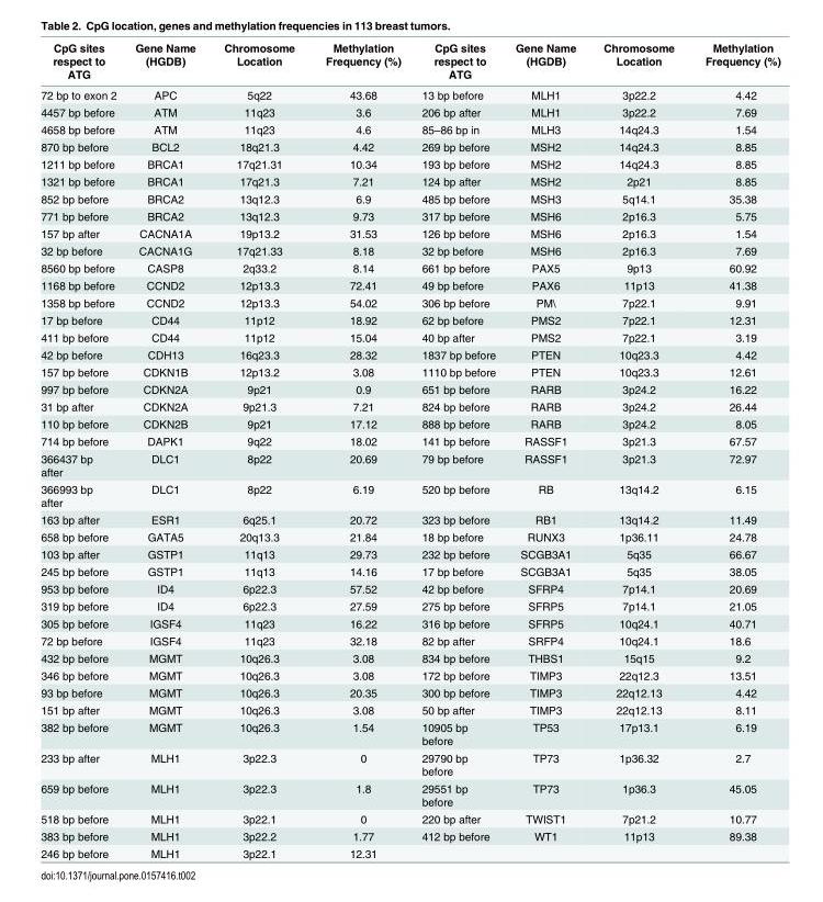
<table><thead><tr><td>CpG sites respect to ATG</td><td>Gene Name (HGDB)</td><td>Chromosome Location</td><td>Methylation Frequency (%)</td><td>CpG sites respect to ATG</td><td>Gene Name (HGDB)</td><td>Chromosome Location</td><td>Methylation Frequency (%)</td></tr></thead><tbody><tr><td>72 bp to exon 2</td><td>APC</td><td>5q22</td><td>43.68</td><td>13 bp before</td><td>MLH1</td><td>3p22.2</td><td>4.42</td></tr><tr><td>4457 bp before</td><td>ATM</td><td>11q23</td><td>3.6</td><td>206 bp after</td><td>MLH1</td><td>3p22.2</td><td>7.69</td></tr><tr><td>4658 bp before</td><td>ATM</td><td>11q23</td><td>4.6</td><td>85–86 bp in</td><td>MLH3</td><td>14q24.3</td><td>1.54</td></tr><tr><td>870 bp before</td><td>BCL2</td><td>18q21.3</td><td>4.42</td><td>269 bp before</td><td>MSH2</td><td>14q24.3</td><td>8.85</td></tr><tr><td>1211 bp before</td><td>BRCA1</td><td>17q21.31</td><td>10.34</td><td>193 bp before</td><td>MSH2</td><td>14q24.3</td><td>8.85</td></tr><tr><td>1321 bp before</td><td>BRCA1</td><td>17q21.3</td><td>7.21</td><td>124 bp after</td><td>MSH2</td><td>2p21</td><td>8.85</td></tr><tr><td>852 bp before</td><td>BRCA2</td><td>13q12.3</td><td>6.9</td><td>485 bp before</td><td>MSH3</td><td>5q14.1</td><td>35.38</td></tr><tr><td>771 bp before</td><td>BRCA2</td><td>13q12.3</td><td>9.73</td><td>317 bp before</td><td>MSH6</td><td>2p16.3</td><td>5.75</td></tr><tr><td>157 bp after</td><td>CACNA1A</td><td>19p13.2</td><td>31.53</td><td>126 bp before</td><td>MSH6</td><td>2p16.3</td><td>1.54</td></tr><tr><td>32 bp before</td><td>CACNA1G</td><td>17q21.33</td><td>8.18</td><td>32 bp before</td><td>MSH6</td><td>2p16.3</td><td>7.69</td></tr><tr><td>8560 bp before</td><td>CASP8</td><td>2q33.2</td><td>8.14</td><td>661 bp before</td><td>PAX5</td><td>9p13</td><td>60.92</td></tr><tr><td>1168 bp before</td><td>CCND2</td><td>12p13.3</td><td>72.41</td><td>49 bp before</td><td>PAX6</td><td>11p13</td><td>41.38</td></tr><tr><td>1358 bp before</td><td>CCND2</td><td>12p13.3</td><td>54.02</td><td>306 bp before</td><td>PM\</td><td>7p22.1</td><td>9.91</td></tr><tr><td>17 bp before</td><td>CD44</td><td>11p12</td><td>18.92</td><td>62 bp before</td><td>PMS2</td><td>7p22.1</td><td>12.31</td></tr><tr><td>411 bp before</td><td>CD44</td><td>11p12</td><td>15.04</td><td>40 bp after</td><td>PMS2</td><td>7p22.1</td><td>3.19</td></tr><tr><td>42 bp before</td><td>CDH13</td><td>16q23.3</td><td>28.32</td><td>1837 bp before</td><td>PTEN</td><td>10q23.3</td><td>4.42</td></tr><tr><td>157 bp before</td><td>CDKN1B</td><td>12p13.2</td><td>3.08</td><td>1110 bp before</td><td>PTEN</td><td>10q23.3</td><td>12.61</td></tr><tr><td>997 bp before</td><td>CDKN2A</td><td>9p21</td><td>0.9</td><td>651 bp before</td><td>RARB</td><td>3p24.2</td><td>16.22</td></tr><tr><td>31 bp after</td><td>CDKN2A</td><td>9p21.3</td><td>7.21</td><td>824 bp before</td><td>RARB</td><td>3p24.2</td><td>26.44</td></tr><tr><td>110 bp before</td><td>CDKN2B</td><td>9p21</td><td>17.12</td><td>888 bp before</td><td>RARB</td><td>3p24.2</td><td>8.05</td></tr><tr><td>714 bp before</td><td>DAPK1</td><td>9q22</td><td>18.02</td><td>141 bp before</td><td>RASSF1</td><td>3p21.3</td><td>67.57</td></tr><tr><td>366437 bp after</td><td>DLC1</td><td>8p22</td><td>20.69</td><td>79 bp before</td><td>RASSF1</td><td>3p21.3</td><td>72.97</td></tr><tr><td>366993 bp after</td><td>DLC1</td><td>8p22</td><td>6.19</td><td>520 bp before</td><td>RB</td><td>13q14.2</td><td>6.15</td></tr><tr><td>163 bp after</td><td>ESR1</td><td>6q25.1</td><td>20.72</td><td>323 bp before</td><td>RB1</td><td>13q14.2</td><td>11.49</td></tr><tr><td>658 bp before</td><td>GATA5</td><td>20q13.3</td><td>21.84</td><td>18 bp before</td><td>RUNX3</td><td>1p36.11</td><td>24.78</td></tr><tr><td>103 bp after</td><td>GSTP1</td><td>11q13</td><td>29.73</td><td>232 bp before</td><td>SCGB3A1</td><td>5q35</td><td>66.67</td></tr><tr><td>245 bp before</td><td>GSTP1</td><td>11q13</td><td>14.16</td><td>17 bp before</td><td>SCGB3A1</td><td>5q35</td><td>38.05</td></tr><tr><td>953 bp before</td><td>ID4</td><td>6p22.3</td><td>57.52</td><td>42 bp before</td><td>SFRP4</td><td>7p14.1</td><td>20.69</td></tr><tr><td>319 bp before</td><td>ID4</td><td>6p22.3</td><td>27.59</td><td>275 bp before</td><td>SFRP5</td><td>7p14.1</td><td>21.05</td></tr><tr><td>305 bp before</td><td>IGSF4</td><td>11q23</td><td>16.22</td><td>316 bp before</td><td>SFRP5</td><td>10q24.1</td><td>40.71</td></tr><tr><td>72 bp before</td><td>IGSF4</td><td>11q23</td><td>32.18</td><td>82 bp after</td><td>SRFP4</td><td>10q24.1</td><td>18.6</td></tr><tr><td>432 bp before</td><td>MGMT</td><td>10q26.3</td><td>3.08</td><td>834 bp before</td><td>THBS1</td><td>15q15</td><td>9.2</td></tr><tr><td>346 bp before</td><td>MGMT</td><td>10q26.3</td><td>3.08</td><td>172 bp before</td><td>TIMP3</td><td>22q12.3</td><td>13.51</td></tr><tr><td>93 bp before</td><td>MGMT</td><td>10q26.3</td><td>20.35</td><td>300 bp before</td><td>TIMP3</td><td>22q12.13</td><td>4.42</td></tr><tr><td>151 bp after</td><td>MGMT</td><td>10q26.3</td><td>3.08</td><td>50 bp after</td><td>TIMP3</td><td>22q12.13</td><td>8.11</td></tr><tr><td>382 bp before</td><td>MGMT</td><td>10q26.3</td><td>1.54</td><td>10905 bp before</td><td>TP53</td><td>17p13.1</td><td>6.19</td></tr><tr><td>233 bp after</td><td>MLH1</td><td>3p22.3</td><td>0</td><td>29790 bp before</td><td>TP73</td><td>1p36.32</td><td>2.7</td></tr><tr><td>659 bp before</td><td>MLH1</td><td>3p22.3</td><td>1.8</td><td>29551 bp before</td><td>TP73</td><td>1p36.3</td><td>45.05</td></tr><tr><td>518 bp before</td><td>MLH1</td><td>3p22.1</td><td>0</td><td>220 bp after</td><td>TWIST1</td><td>7p21.2</td><td>10.77</td></tr><tr><td>383 bp before</td><td>MLH1</td><td>3p22.2</td><td>1.77</td><td>412 bp before</td><td>WT1</td><td>11p13</td><td>89.38</td></tr><tr><td>246 bp before</td><td>MLH1</td><td>3p22.1</td><td>12.31</td><td></td><td></td><td></td><td></td></tr></tbody></table>